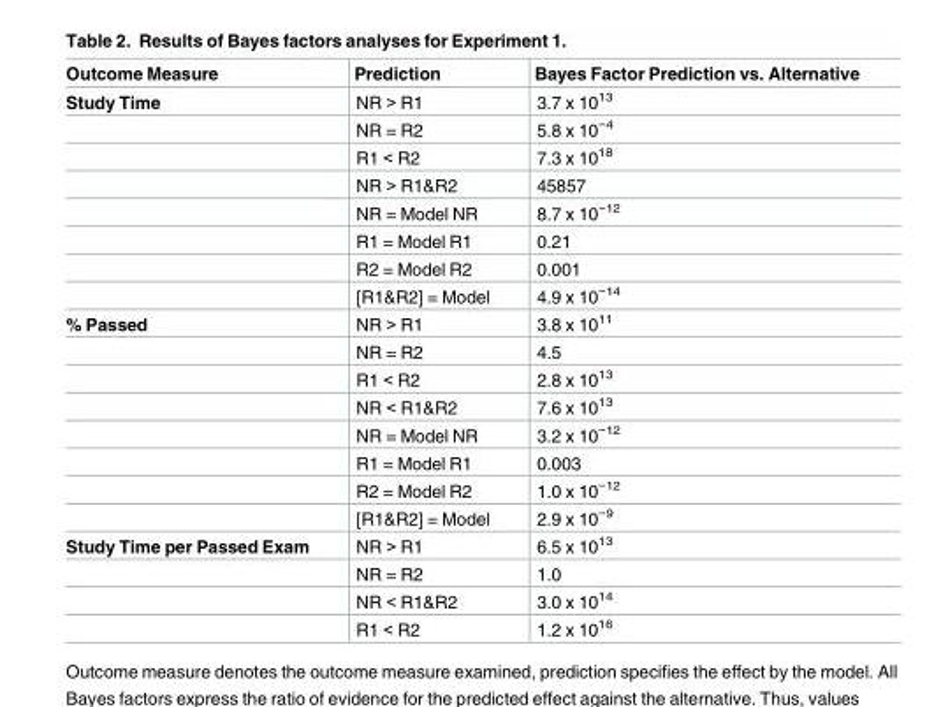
<table><thead><tr><td>Outcome Measure</td><td>Prediction</td><td>Bayes Factor Prediction vs. Alternative</td></tr></thead><tbody><tr><td rowspan="8">Study Time</td><td>NR &gt; R1</td><td>3.7 x 10<sup>13</sup></td></tr><tr><td>NR = R2</td><td>5.8 x 10<sup>−4</sup></td></tr><tr><td>R1 &lt; R2</td><td>7.3 x 10<sup>18</sup></td></tr><tr><td>NR &gt; R1&amp;R2</td><td>45857</td></tr><tr><td>NR = Model NR</td><td>8.7 x 10<sup>−12</sup></td></tr><tr><td>R1 = Model R1</td><td>0.21</td></tr><tr><td>R2 = Model R2</td><td>0.001</td></tr><tr><td>[R1&amp;R2] = Model</td><td>4.9 x 10<sup>−14</sup></td></tr><tr><td rowspan="8">% Passed</td><td>NR &gt; R1</td><td>3.8 x 10<sup>11</sup></td></tr><tr><td>NR = R2</td><td>4.5</td></tr><tr><td>R1 &lt; R2</td><td>2.8 x 10<sup>13</sup></td></tr><tr><td>NR &lt; R1&amp;R2</td><td>7.6 x 10<sup>13</sup></td></tr><tr><td>NR = Model NR</td><td>3.2 x 10<sup>−12</sup></td></tr><tr><td>R1 = Model R1</td><td>0.003</td></tr><tr><td>R2 = Model R2</td><td>1.0 x 10<sup>−12</sup></td></tr><tr><td>[R1&amp;R2] = Model</td><td>2.9 x 10<sup>−9</sup></td></tr><tr><td rowspan="4">Study Time per Passed Exam</td><td>NR &gt; R1</td><td>6.5 x 10<sup>13</sup></td></tr><tr><td>NR = R2</td><td>1.0</td></tr><tr><td>NR &lt; R1&amp;R2</td><td>3.0 x 10<sup>14</sup></td></tr><tr><td>R1 &lt; R2</td><td>1.2 x 10<sup>16</sup></td></tr></tbody></table>